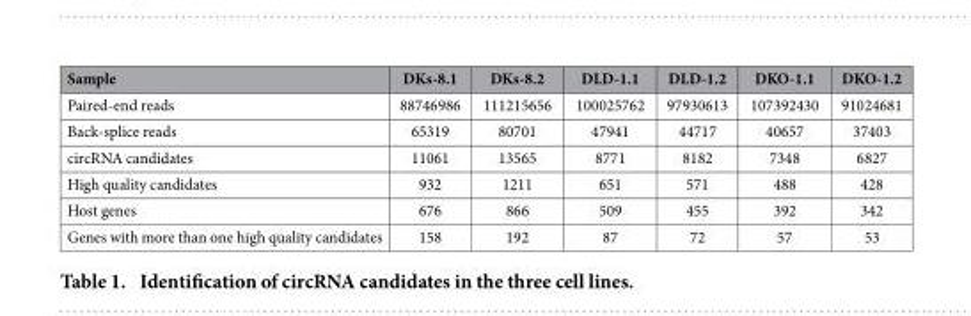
<table><thead><tr><td>Sample</td><td>DKs-8.1</td><td>DKs-8.2</td><td>DLD-1.1</td><td>DLD-1.2</td><td>DKO-1.1</td><td>DKO-1.2</td></tr></thead><tbody><tr><td>Paired-end reads</td><td>88746986</td><td>111215656</td><td>100025762</td><td>97930613</td><td>107392430</td><td>91024681</td></tr><tr><td>Back-splice reads</td><td>65319</td><td>80701</td><td>47941</td><td>44717</td><td>40657</td><td>37403</td></tr><tr><td>circRNA candidates</td><td>11061</td><td>13565</td><td>8771</td><td>8182</td><td>7348</td><td>6827</td></tr><tr><td>High quality candidates</td><td>932</td><td>1211</td><td>651</td><td>571</td><td>488</td><td>428</td></tr><tr><td>Host genes</td><td>676</td><td>866</td><td>509</td><td>455</td><td>392</td><td>342</td></tr><tr><td>Genes with more than one high quality candidates</td><td>158</td><td>192</td><td>87</td><td>72</td><td>57</td><td>53</td></tr></tbody></table>